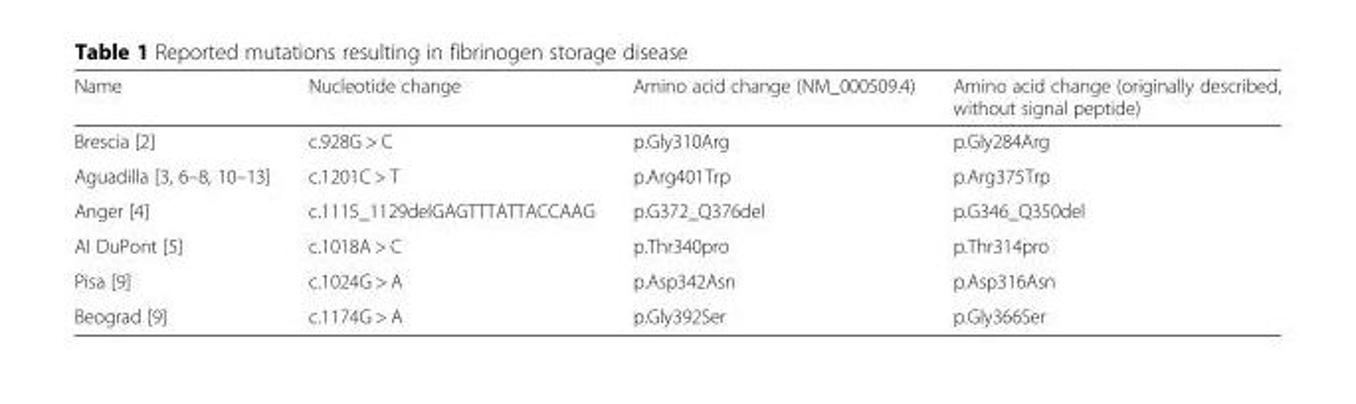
<table><thead><tr><td>Name</td><td>Nucleotide change</td><td>Amino acid change (NM_000509.4)</td><td>Amino acid change (originally described, without signal peptide)</td></tr></thead><tbody><tr><td>Brescia [2]</td><td>c.928G &gt; C</td><td>p.Gly310Arg</td><td>p.Gly284Arg</td></tr><tr><td>Aguadilla [3, 6–8, 10–13]</td><td>c.1201C &gt; T</td><td>p.Arg401Trp</td><td>p.Arg375Trp</td></tr><tr><td>Anger [4]</td><td>c.1115_1129delGAGTTTATTACCAAG</td><td>p.G372_Q376del</td><td>p.G346_Q350del</td></tr><tr><td>AI DuPont [5]</td><td>c.1018A &gt; C</td><td>p.Thr340pro</td><td>p.Thr314pro</td></tr><tr><td>Pisa [9]</td><td>c.1024G &gt; A</td><td>p.Asp342Asn</td><td>p.Asp316Asn</td></tr><tr><td>Beograd [9]</td><td>c.1174G &gt; A</td><td>p.Gly392Ser</td><td>p.Gly366Ser</td></tr></tbody></table>